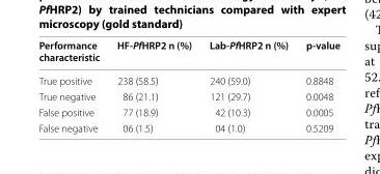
<table><thead><tr><td>Performance characteristic</td><td>HF-PfHRP2 n (%)</td><td>Lab-PfHRP2 n (%)</td><td>p-value</td></tr></thead><tbody><tr><td>True positive</td><td>238 (58.5)</td><td>240 (59.0)</td><td>0.8848</td></tr><tr><td>True negative</td><td>86 (21.1)</td><td>121 (29.7)</td><td>0.0048</td></tr><tr><td>False positive</td><td>77 (18.9)</td><td>42 (10.3)</td><td>0.0005</td></tr><tr><td>False negative</td><td>06 (1.5)</td><td>04 (1.0)</td><td>0.5209</td></tr></tbody></table>